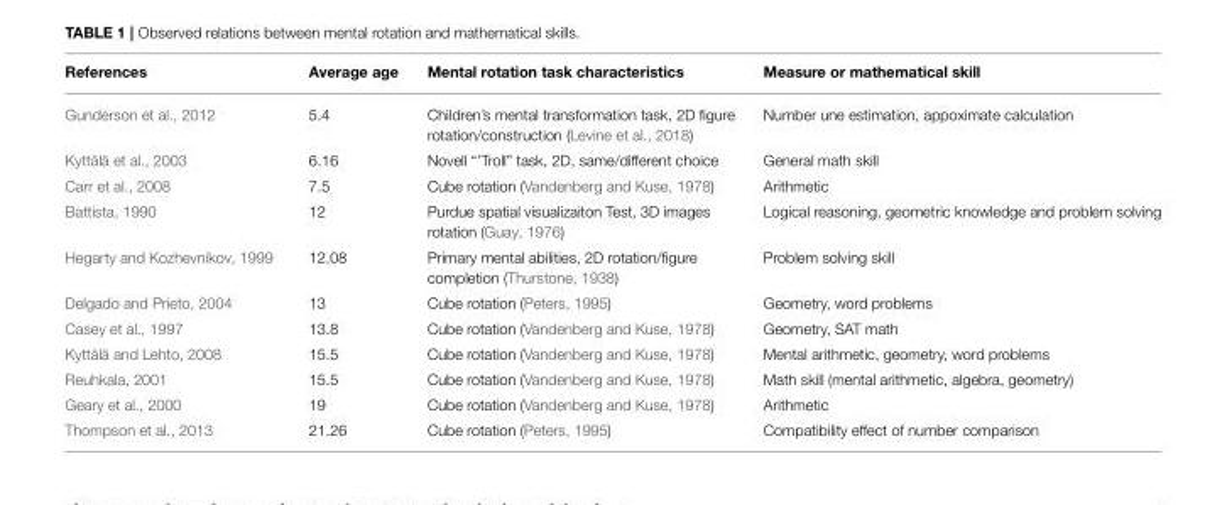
<table><thead><tr><td>References</td><td>Average age</td><td>Mental rotation task characteristics</td><td>Measure or mathematical skill</td></tr></thead><tbody><tr><td>Gunderson et al., 2012</td><td>5.4</td><td>Children’s mental transformation task, 2D figure rotation/construction (Levine et al., 2018)</td><td>Number une estimation, appoximate calculation</td></tr><tr><td>Kyttälä et al., 2003</td><td>6.16</td><td>Novell “’Troll” task, 2D, same/different choice</td><td>General math skill</td></tr><tr><td>Carr et al., 2008</td><td>7.5</td><td>Cube rotation (Vandenberg and Kuse, 1978)</td><td>Arithmetic</td></tr><tr><td>Battista, 1990</td><td>12</td><td>Purdue spatial visualizaiton Test, 3D images rotation (Guay, 1976)</td><td>Logical reasoning, geometric knowledge and problem solving</td></tr><tr><td>Hegarty and Kozhevnikov, 1999</td><td>12.08</td><td>Primary mental abilities, 2D rotation/figure completion (Thurstone, 1938)</td><td>Problem solving skill</td></tr><tr><td>Delgado and Prieto, 2004</td><td>13</td><td>Cube rotation (Peters, 1995)</td><td>Geometry, word problems</td></tr><tr><td>Casey et al., 1997</td><td>13.8</td><td>Cube rotation (Vandenberg and Kuse, 1978)</td><td>Geometry, SAT math</td></tr><tr><td>Kyttälä and Lehto, 2008</td><td>15.5</td><td>Cube rotation (Vandenberg and Kuse, 1978)</td><td>Mental arithmetic, geometry, word problems</td></tr><tr><td>Reuhkala, 2001</td><td>15.5</td><td>Cube rotation (Vandenberg and Kuse, 1978)</td><td>Math skill (mental arithmetic, algebra, geometry)</td></tr><tr><td>Geary et al., 2000</td><td>19</td><td>Cube rotation (Vandenberg and Kuse, 1978)</td><td>Arithmetic</td></tr><tr><td>Thompson et al., 2013</td><td>21.26</td><td>Cube rotation (Peters, 1995)</td><td>Compatibility effect of number comparison</td></tr></tbody></table>